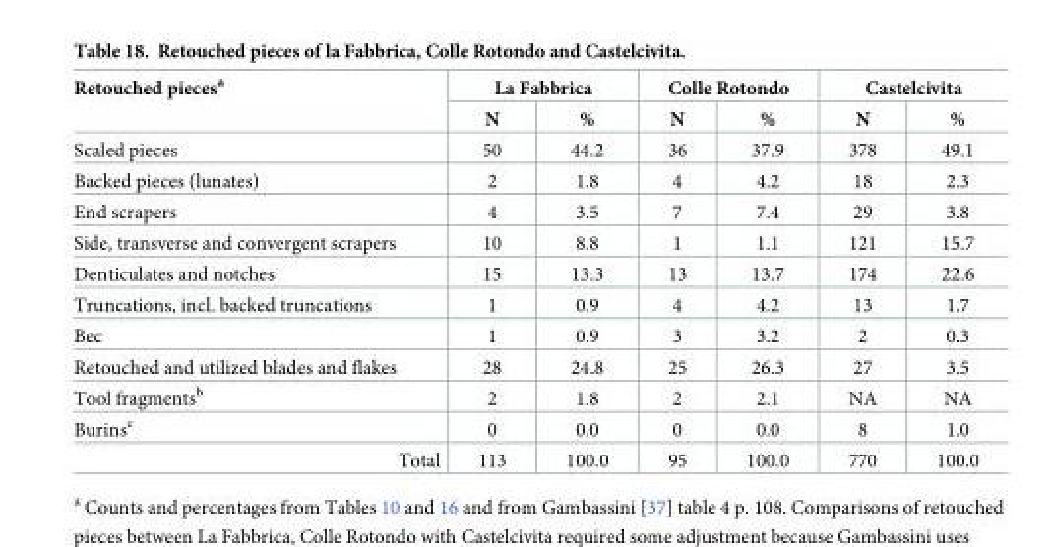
<table><thead><tr><td rowspan="2">Retouched pieces<sup>a</sup></td><td colspan="2">La Fabbrica</td><td colspan="2">Colle Rotondo</td><td colspan="2">Castelcivita</td></tr><tr><td>N</td><td>%</td><td>N</td><td>%</td><td>N</td><td>%</td></tr></thead><tbody><tr><td>Scaled pieces</td><td>50</td><td>44.2</td><td>36</td><td>37.9</td><td>378</td><td>49.1</td></tr><tr><td>Backed pieces (lunates)</td><td>2</td><td>1.8</td><td>4</td><td>4.2</td><td>18</td><td>2.3</td></tr><tr><td>End scrapers</td><td>4</td><td>3.5</td><td>7</td><td>7.4</td><td>29</td><td>3.8</td></tr><tr><td>Side, transverse and convergent scrapers</td><td>10</td><td>8.8</td><td>1</td><td>1.1</td><td>121</td><td>15.7</td></tr><tr><td>Denticulates and notches</td><td>15</td><td>13.3</td><td>13</td><td>13.7</td><td>174</td><td>22.6</td></tr><tr><td>Truncations, incl. backed truncations</td><td>1</td><td>0.9</td><td>4</td><td>4.2</td><td>13</td><td>1.7</td></tr><tr><td>Bec</td><td>1</td><td>0.9</td><td>3</td><td>3.2</td><td>2</td><td>0.3</td></tr><tr><td>Retouched and utilized blades and flakes</td><td>28</td><td>24.8</td><td>25</td><td>26.3</td><td>27</td><td>3.5</td></tr><tr><td>Tool fragments<sup>b</sup></td><td>2</td><td>1.8</td><td>2</td><td>2.1</td><td>NA</td><td>NA</td></tr><tr><td>Burins<sup>c</sup></td><td>0</td><td>0.0</td><td>0</td><td>0.0</td><td>8</td><td>1.0</td></tr><tr><td>Total</td><td>113</td><td>100.0</td><td>95</td><td>100.0</td><td>770</td><td>100.0</td></tr></tbody></table>